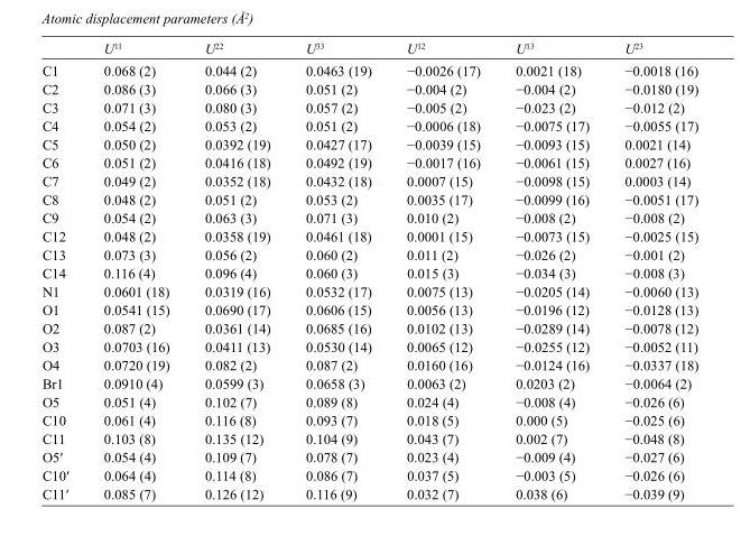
<table><thead><tr><td></td><td>U<sup>11</sup></td><td>U<sup>22</sup></td><td>U<sup>33</sup></td><td>U<sup>12</sup></td><td>U<sup>13</sup></td><td>U<sup>23</sup></td></tr></thead><tbody><tr><td>C1</td><td>0.068 (2)</td><td>0.044 (2)</td><td>0.0463 (19)</td><td>−0.0026 (17)</td><td>0.0021 (18)</td><td>−0.0018 (16)</td></tr><tr><td>C2</td><td>0.086 (3)</td><td>0.066 (3)</td><td>0.051 (2)</td><td>−0.004 (2)</td><td>−0.004 (2)</td><td>−0.0180 (19)</td></tr><tr><td>C3</td><td>0.071 (3)</td><td>0.080 (3)</td><td>0.057 (2)</td><td>−0.005 (2)</td><td>−0.023 (2)</td><td>−0.012 (2)</td></tr><tr><td>C4</td><td>0.054 (2)</td><td>0.053 (2)</td><td>0.051 (2)</td><td>−0.0006 (18)</td><td>−0.0075 (17)</td><td>−0.0055 (17)</td></tr><tr><td>C5</td><td>0.050 (2)</td><td>0.0392 (19)</td><td>0.0427 (17)</td><td>−0.0039 (15)</td><td>−0.0093 (15)</td><td>0.0021 (14)</td></tr><tr><td>C6</td><td>0.051 (2)</td><td>0.0416 (18)</td><td>0.0492 (19)</td><td>−0.0017 (16)</td><td>−0.0061 (15)</td><td>0.0027 (16)</td></tr><tr><td>C7</td><td>0.049 (2)</td><td>0.0352 (18)</td><td>0.0432 (18)</td><td>0.0007 (15)</td><td>−0.0098 (15)</td><td>0.0003 (14)</td></tr><tr><td>C8</td><td>0.048 (2)</td><td>0.051 (2)</td><td>0.053 (2)</td><td>0.0035 (17)</td><td>−0.0099 (16)</td><td>−0.0051 (17)</td></tr><tr><td>C9</td><td>0.054 (2)</td><td>0.063 (3)</td><td>0.071 (3)</td><td>0.010 (2)</td><td>−0.008 (2)</td><td>−0.008 (2)</td></tr><tr><td>C12</td><td>0.048 (2)</td><td>0.0358 (19)</td><td>0.0461 (18)</td><td>0.0001 (15)</td><td>−0.0073 (15)</td><td>−0.0025 (15)</td></tr><tr><td>C13</td><td>0.073 (3)</td><td>0.056 (2)</td><td>0.060 (2)</td><td>0.011 (2)</td><td>−0.026 (2)</td><td>−0.001 (2)</td></tr><tr><td>C14</td><td>0.116 (4)</td><td>0.096 (4)</td><td>0.060 (3)</td><td>0.015 (3)</td><td>−0.034 (3)</td><td>−0.008 (3)</td></tr><tr><td>N1</td><td>0.0601 (18)</td><td>0.0319 (16)</td><td>0.0532 (17)</td><td>0.0075 (13)</td><td>−0.0205 (14)</td><td>−0.0060 (13)</td></tr><tr><td>O1</td><td>0.0541 (15)</td><td>0.0690 (17)</td><td>0.0606 (15)</td><td>0.0056 (13)</td><td>−0.0196 (12)</td><td>−0.0128 (13)</td></tr><tr><td>O2</td><td>0.087 (2)</td><td>0.0361 (14)</td><td>0.0685 (16)</td><td>0.0102 (13)</td><td>−0.0289 (14)</td><td>−0.0078 (12)</td></tr><tr><td>O3</td><td>0.0703 (16)</td><td>0.0411 (13)</td><td>0.0530 (14)</td><td>0.0065 (12)</td><td>−0.0255 (12)</td><td>−0.0052 (11)</td></tr><tr><td>O4</td><td>0.0720 (19)</td><td>0.082 (2)</td><td>0.087 (2)</td><td>0.0160 (16)</td><td>−0.0124 (16)</td><td>−0.0337 (18)</td></tr><tr><td>Br1</td><td>0.0910 (4)</td><td>0.0599 (3)</td><td>0.0658 (3)</td><td>0.0063 (2)</td><td>0.0203 (2)</td><td>−0.0064 (2)</td></tr><tr><td>O5</td><td>0.051 (4)</td><td>0.102 (7)</td><td>0.089 (8)</td><td>0.024 (4)</td><td>−0.008 (4)</td><td>−0.026 (6)</td></tr><tr><td>C10</td><td>0.061 (4)</td><td>0.116 (8)</td><td>0.093 (7)</td><td>0.018 (5)</td><td>0.000 (5)</td><td>−0.025 (6)</td></tr><tr><td>C11</td><td>0.103 (8)</td><td>0.135 (12)</td><td>0.104 (9)</td><td>0.043 (7)</td><td>0.002 (7)</td><td>−0.048 (8)</td></tr><tr><td>O5′</td><td>0.054 (4)</td><td>0.109 (7)</td><td>0.078 (7)</td><td>0.023 (4)</td><td>−0.009 (4)</td><td>−0.027 (6)</td></tr><tr><td>C10′</td><td>0.064 (4)</td><td>0.114 (8)</td><td>0.086 (7)</td><td>0.037 (5)</td><td>−0.003 (5)</td><td>−0.026 (6)</td></tr><tr><td>C11′</td><td>0.085 (7)</td><td>0.126 (12)</td><td>0.116 (9)</td><td>0.032 (7)</td><td>0.038 (6)</td><td>−0.039 (9)</td></tr></tbody></table>